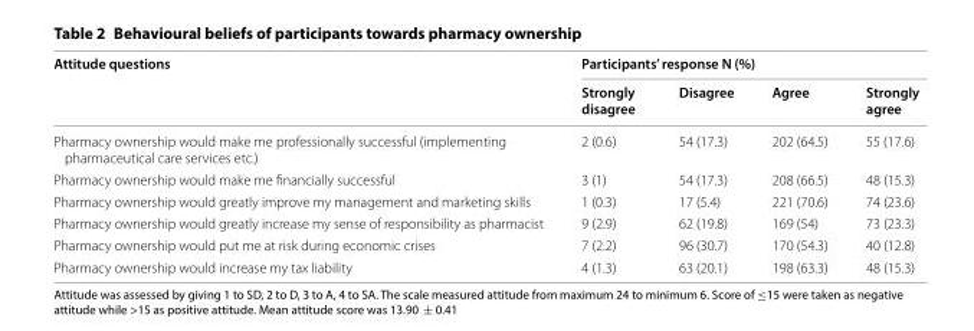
<table><thead><tr><td rowspan="2">Attitude questions</td><td colspan="4">Participants’ response N (%)</td></tr><tr><td>Strongly disagree</td><td>Disagree</td><td>Agree</td><td>Strongly agree</td></tr></thead><tbody><tr><td>Pharmacy ownership would make me professionally successful (implementing pharmaceutical care services etc.)</td><td>2 (0.6)</td><td>54 (17.3)</td><td>202 (64.5)</td><td>55 (17.6)</td></tr><tr><td>Pharmacy ownership would make me financially successful</td><td>3 (1)</td><td>54 (17.3)</td><td>208 (66.5)</td><td>48 (15.3)</td></tr><tr><td>Pharmacy ownership would greatly improve my management and marketing skills</td><td>1 (0.3)</td><td>17 (5.4)</td><td>221 (70.6)</td><td>74 (23.6)</td></tr><tr><td>Pharmacy ownership would greatly increase my sense of responsibility as pharmacist</td><td>9 (2.9)</td><td>62 (19.8)</td><td>169 (54)</td><td>73 (23.3)</td></tr><tr><td>Pharmacy ownership would put me at risk during economic crises</td><td>7 (2.2)</td><td>96 (30.7)</td><td>170 (54.3)</td><td>40 (12.8)</td></tr><tr><td>Pharmacy ownership would increase my tax liability</td><td>4 (1.3)</td><td>63 (20.1)</td><td>198 (63.3)</td><td>48 (15.3)</td></tr></tbody></table>